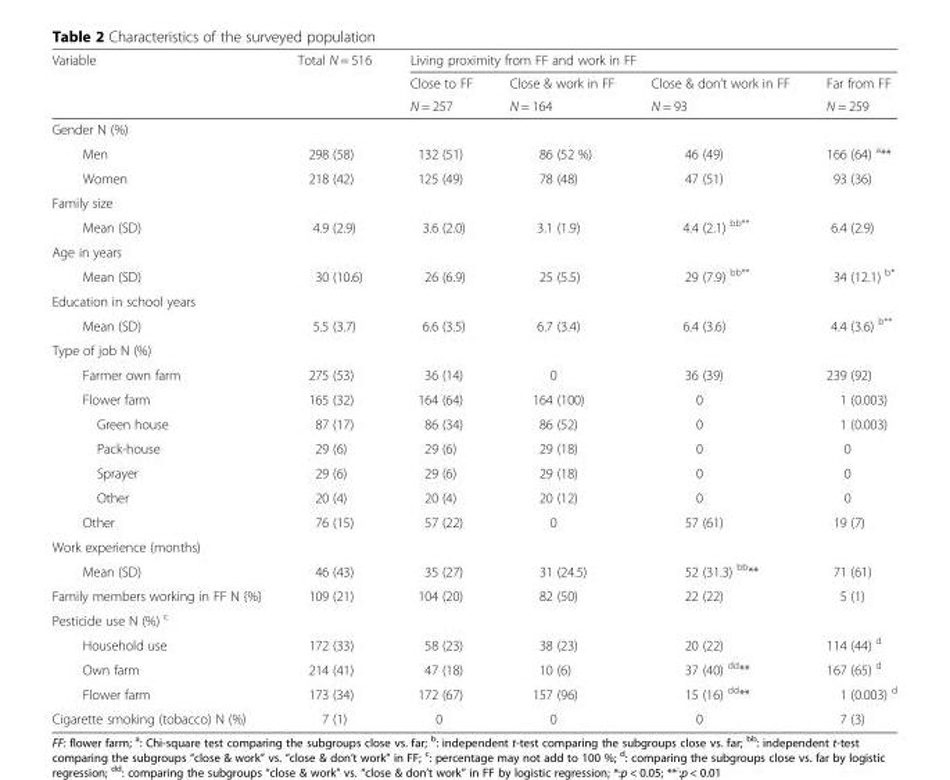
<table><thead><tr><td rowspan="3">Variable</td><td rowspan="3">Total N = 516</td><td colspan="4">Living proximity from FF and work in FF</td></tr><tr><td rowspan="2">Close to FF N = 257</td><td rowspan="2">Close &amp; work in FF N = 164</td><td rowspan="2">Close &amp; don’t work in FF N = 93</td><td rowspan="2">Far from FF N = 259</td></tr><tr></tr></thead><tbody><tr><td colspan="6">Gender N (%)</td></tr><tr><td>Men</td><td>298 (58)</td><td>132 (51)</td><td>86 (52 %)</td><td>46 (49)</td><td>166 (64) <sup>a</sup>**</td></tr><tr><td>Women</td><td>218 (42)</td><td>125 (49)</td><td>78 (48)</td><td>47 (51)</td><td>93 (36)</td></tr><tr><td colspan="6">Family size</td></tr><tr><td>Mean (SD)</td><td>4.9 (2.9)</td><td>3.6 (2.0)</td><td>3.1 (1.9)</td><td>4.4 (2.1) <sup>bb**</sup></td><td>6.4 (2.9)</td></tr><tr><td colspan="6">Age in years</td></tr><tr><td>Mean (SD)</td><td>30 (10.6)</td><td>26 (6.9)</td><td>25 (5.5)</td><td>29 (7.9) <sup>bb**</sup></td><td>34 (12.1) <sup>b*</sup></td></tr><tr><td colspan="6">Education in school years</td></tr><tr><td>Mean (SD)</td><td>5.5 (3.7)</td><td>6.6 (3.5)</td><td>6.7 (3.4)</td><td>6.4 (3.6)</td><td>4.4 (3.6) <sup>b**</sup></td></tr><tr><td colspan="6">Type of job N (%)</td></tr><tr><td>Farmer own farm</td><td>275 (53)</td><td>36 (14)</td><td>0</td><td>36 (39)</td><td>239 (92)</td></tr><tr><td>Flower farm</td><td>165 (32)</td><td>164 (64)</td><td>164 (100)</td><td>0</td><td>1 (0.003)</td></tr><tr><td>Green house</td><td>87 (17)</td><td>86 (34)</td><td>86 (52)</td><td>0</td><td>1 (0.003)</td></tr><tr><td>Pack-house</td><td>29 (6)</td><td>29 (6)</td><td>29 (18)</td><td>0</td><td>0</td></tr><tr><td>Sprayer</td><td>29 (6)</td><td>29 (6)</td><td>29 (18)</td><td>0</td><td>0</td></tr><tr><td>Other</td><td>20 (4)</td><td>20 (4)</td><td>20 (12)</td><td>0</td><td>0</td></tr><tr><td>Other</td><td>76 (15)</td><td>57 (22)</td><td>0</td><td>57 (61)</td><td>19 (7)</td></tr><tr><td colspan="6">Work experience (months)</td></tr><tr><td>Mean (SD)</td><td>46 (43)</td><td>35 (27)</td><td>31 (24.5)</td><td>52 (31.3) <sup>bb</sup>**</td><td>71 (61)</td></tr><tr><td>Family members working in FF N {%}</td><td>109 (21)</td><td>104 (20)</td><td>82 (50)</td><td>22 (22)</td><td>5 (1)</td></tr><tr><td colspan="6">Pesticide use N (%) <sup>c</sup></td></tr><tr><td>Household use</td><td>172 (33)</td><td>58 (23)</td><td>38 (23)</td><td>20 (22)</td><td>114 (44) <sup>d</sup></td></tr><tr><td>Own farm</td><td>214 (41)</td><td>47 (18)</td><td>10 (6)</td><td>37 (40) <sup>dd</sup>**</td><td>167 (65) <sup>d</sup></td></tr><tr><td>Flower farm</td><td>173 (34)</td><td>172 (67)</td><td>157 (96)</td><td>15 (16) <sup>dd</sup>**</td><td>1 (0.003) <sup>d</sup></td></tr><tr><td>Cigarette smoking (tobacco) N (%)</td><td>7 (1)</td><td>0</td><td>0</td><td>0</td><td>7 (3)</td></tr></tbody></table>